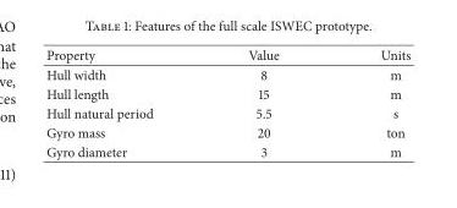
<table><thead><tr><td>Property</td><td>Value</td><td>Units</td></tr></thead><tbody><tr><td>Hull width</td><td>8</td><td>m</td></tr><tr><td>Hull length</td><td>15</td><td>m</td></tr><tr><td>Hull natural period</td><td>5.5</td><td>s</td></tr><tr><td>Gyro mass</td><td>20</td><td>ton</td></tr><tr><td>Gyro diameter</td><td>3</td><td>m</td></tr></tbody></table>